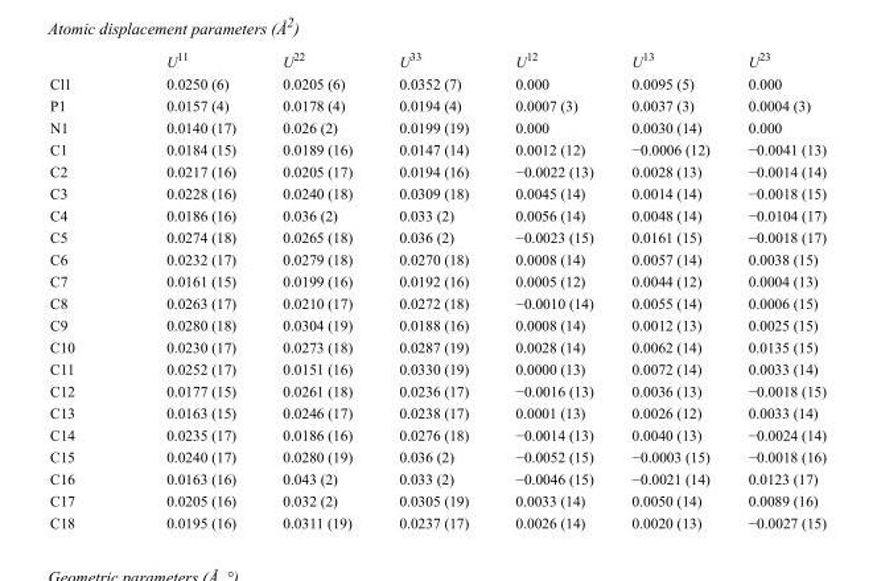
<table><thead><tr><td></td><td>U<sup>11</sup></td><td>U<sup>22</sup></td><td>U<sup>33</sup></td><td>U<sup>12</sup></td><td>U<sup>13</sup></td><td>U<sup>23</sup></td></tr></thead><tbody><tr><td>Cl1</td><td>0.0250 (6)</td><td>0.0205 (6)</td><td>0.0352 (7)</td><td>0.000</td><td>0.0095 (5)</td><td>0.000</td></tr><tr><td>P1</td><td>0.0157 (4)</td><td>0.0178 (4)</td><td>0.0194 (4)</td><td>0.0007 (3)</td><td>0.0037 (3)</td><td>0.0004 (3)</td></tr><tr><td>N1</td><td>0.0140 (17)</td><td>0.026 (2)</td><td>0.0199 (19)</td><td>0.000</td><td>0.0030 (14)</td><td>0.000</td></tr><tr><td>C1</td><td>0.0184 (15)</td><td>0.0189 (16)</td><td>0.0147 (14)</td><td>0.0012 (12)</td><td>−0.0006 (12)</td><td>−0.0041 (13)</td></tr><tr><td>C2</td><td>0.0217 (16)</td><td>0.0205 (17)</td><td>0.0194 (16)</td><td>−0.0022 (13)</td><td>0.0028 (13)</td><td>−0.0014 (14)</td></tr><tr><td>C3</td><td>0.0228 (16)</td><td>0.0240 (18)</td><td>0.0309 (18)</td><td>0.0045 (14)</td><td>0.0014 (14)</td><td>−0.0018 (15)</td></tr><tr><td>C4</td><td>0.0186 (16)</td><td>0.036 (2)</td><td>0.033 (2)</td><td>0.0056 (14)</td><td>0.0048 (14)</td><td>−0.0104 (17)</td></tr><tr><td>C5</td><td>0.0274 (18)</td><td>0.0265 (18)</td><td>0.036 (2)</td><td>−0.0023 (15)</td><td>0.0161 (15)</td><td>−0.0018 (17)</td></tr><tr><td>C6</td><td>0.0232 (17)</td><td>0.0279 (18)</td><td>0.0270 (18)</td><td>0.0008 (14)</td><td>0.0057 (14)</td><td>0.0038 (15)</td></tr><tr><td>C7</td><td>0.0161 (15)</td><td>0.0199 (16)</td><td>0.0192 (16)</td><td>0.0005 (12)</td><td>0.0044 (12)</td><td>0.0004 (13)</td></tr><tr><td>C8</td><td>0.0263 (17)</td><td>0.0210 (17)</td><td>0.0272 (18)</td><td>−0.0010 (14)</td><td>0.0055 (14)</td><td>0.0006 (15)</td></tr><tr><td>C9</td><td>0.0280 (18)</td><td>0.0304 (19)</td><td>0.0188 (16)</td><td>0.0008 (14)</td><td>0.0012 (13)</td><td>0.0025 (15)</td></tr><tr><td>C10</td><td>0.0230 (17)</td><td>0.0273 (18)</td><td>0.0287 (19)</td><td>0.0028 (14)</td><td>0.0062 (14)</td><td>0.0135 (15)</td></tr><tr><td>C11</td><td>0.0252 (17)</td><td>0.0151 (16)</td><td>0.0330 (19)</td><td>0.0000 (13)</td><td>0.0072 (14)</td><td>0.0033 (14)</td></tr><tr><td>C12</td><td>0.0177 (15)</td><td>0.0261 (18)</td><td>0.0236 (17)</td><td>−0.0016 (13)</td><td>0.0036 (13)</td><td>−0.0018 (15)</td></tr><tr><td>C13</td><td>0.0163 (15)</td><td>0.0246 (17)</td><td>0.0238 (17)</td><td>0.0001 (13)</td><td>0.0026 (12)</td><td>0.0033 (14)</td></tr><tr><td>C14</td><td>0.0235 (17)</td><td>0.0186 (16)</td><td>0.0276 (18)</td><td>−0.0014 (13)</td><td>0.0040 (13)</td><td>−0.0024 (14)</td></tr><tr><td>C15</td><td>0.0240 (17)</td><td>0.0280 (19)</td><td>0.036 (2)</td><td>−0.0052 (15)</td><td>−0.0003 (15)</td><td>−0.0018 (16)</td></tr><tr><td>C16</td><td>0.0163 (16)</td><td>0.043 (2)</td><td>0.033 (2)</td><td>−0.0046 (15)</td><td>−0.0021 (14)</td><td>0.0123 (17)</td></tr><tr><td>C17</td><td>0.0205 (16)</td><td>0.032 (2)</td><td>0.0305 (19)</td><td>0.0033 (14)</td><td>0.0050 (14)</td><td>0.0089 (16)</td></tr><tr><td>C18</td><td>0.0195 (16)</td><td>0.0311 (19)</td><td>0.0237 (17)</td><td>0.0026 (14)</td><td>0.0020 (13)</td><td>−0.0027 (15)</td></tr></tbody></table>